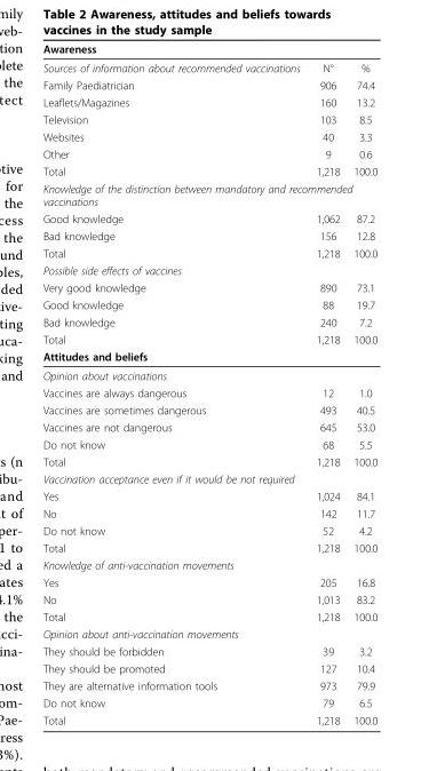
<table><thead><tr><td colspan="3">Awareness</td></tr><tr><td>Sources of information about recommended vaccinations</td><td>N°</td><td>%</td></tr></thead><tbody><tr><td>Family Paediatrician</td><td>906</td><td>74.4</td></tr><tr><td>Leaflets/Magazines</td><td>160</td><td>13.2</td></tr><tr><td>Television</td><td>103</td><td>8.5</td></tr><tr><td>Websites</td><td>40</td><td>3.3</td></tr><tr><td>Other</td><td>9</td><td>0.6</td></tr><tr><td>Total</td><td>1,218</td><td>100.0</td></tr><tr><td colspan="3">Knowledge of the distinction between mandatory and recommended vaccinations</td></tr><tr><td>Good knowledge</td><td>1,062</td><td>87.2</td></tr><tr><td>Bad knowledge</td><td>156</td><td>12.8</td></tr><tr><td>Total</td><td>1,218</td><td>100.0</td></tr><tr><td colspan="3">Possible side effects of vaccines</td></tr><tr><td>Very good knowledge</td><td>890</td><td>73.1</td></tr><tr><td>Good knowledge</td><td>88</td><td>19.7</td></tr><tr><td>Bad knowledge</td><td>240</td><td>7.2</td></tr><tr><td>Total</td><td>1,218</td><td>100.0</td></tr><tr><td colspan="3">Attitudes and beliefs</td></tr><tr><td colspan="3">Opinion about vaccinations</td></tr><tr><td>Vaccines are always dangerous</td><td>12</td><td>1.0</td></tr><tr><td>Vaccines are sometimes dangerous</td><td>493</td><td>40.5</td></tr><tr><td>Vaccines are not dangerous</td><td>645</td><td>53.0</td></tr><tr><td>Do not know</td><td>68</td><td>5.5</td></tr><tr><td>Total</td><td>1,218</td><td>100.0</td></tr><tr><td colspan="3">Vaccination acceptance even if it would be not required</td></tr><tr><td>Yes</td><td>1,024</td><td>84.1</td></tr><tr><td>No</td><td>142</td><td>11.7</td></tr><tr><td>Do not know</td><td>52</td><td>4.2</td></tr><tr><td>Total</td><td>1,218</td><td>100.0</td></tr><tr><td colspan="3">Knowledge of anti-vaccination movements</td></tr><tr><td>Yes</td><td>205</td><td>16.8</td></tr><tr><td>No</td><td>1,013</td><td>83.2</td></tr><tr><td>Total</td><td>1,218</td><td>100.0</td></tr><tr><td colspan="3">Opinion about anti-vaccination movements</td></tr><tr><td>They should be forbidden</td><td>39</td><td>3.2</td></tr><tr><td>They should be promoted</td><td>127</td><td>10.4</td></tr><tr><td>They are alternative information tools</td><td>973</td><td>79.9</td></tr><tr><td>Do not know</td><td>79</td><td>6.5</td></tr><tr><td>Total</td><td>1,218</td><td>100.0</td></tr></tbody></table>